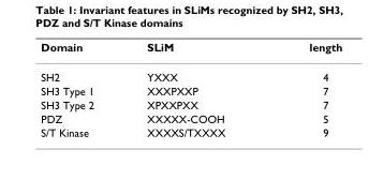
<table><thead><tr><td>Domain</td><td>SLiM</td><td>length</td></tr></thead><tbody><tr><td>SH2</td><td>YXXX</td><td>4</td></tr><tr><td>SH3 Type 1</td><td>XXXPXXP</td><td>7</td></tr><tr><td>SH3 Type 2</td><td>XPXXPXX</td><td>7</td></tr><tr><td>PDZ</td><td>XXXXX-COOH</td><td>5</td></tr><tr><td>S/T Kinase</td><td>XXXXS/TXXXX</td><td>9</td></tr></tbody></table>